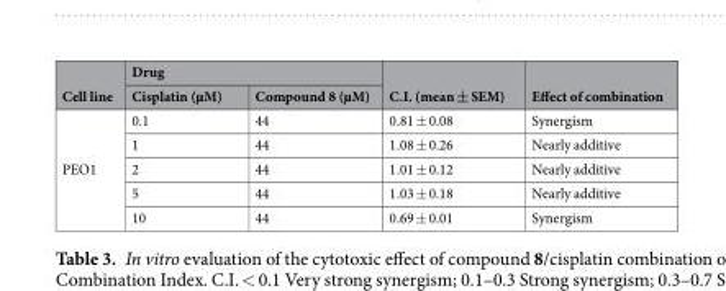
<table><thead><tr><td rowspan="2">Cell line</td><td colspan="2">Drug</td><td rowspan="2">C.I. (mean ± SEM)</td><td rowspan="2">Effect of combination</td></tr><tr><td>Cisplatin (µM)</td><td>Compound 8 (µM)</td></tr></thead><tbody><tr><td rowspan="5">PEO1</td><td>0.1</td><td>44</td><td>0.81 ± 0.08</td><td>Synergism</td></tr><tr><td>1</td><td>44</td><td>1.08 ± 0.26</td><td>Nearly additive</td></tr><tr><td>2</td><td>44</td><td>1.01 ± 0.12</td><td>Nearly additive</td></tr><tr><td>5</td><td>44</td><td>1.03 ± 0.18</td><td>Nearly additive</td></tr><tr><td>10</td><td>44</td><td>0.69 ± 0.01</td><td>Synergism</td></tr></tbody></table>